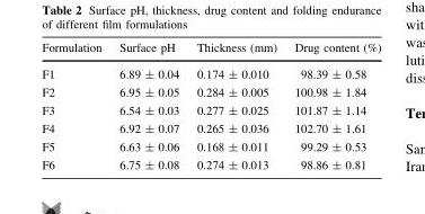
<table><thead><tr><td>Formulation</td><td>Surface pH</td><td>Thickness (mm)</td><td>Drug content (%)</td></tr></thead><tbody><tr><td>F1</td><td>6.89 ± 0.04</td><td>0.174 ± 0.010</td><td>98.39 ± 0.58</td></tr><tr><td>F2</td><td>6.95 ± 0.05</td><td>0.284 ± 0.005</td><td>100.98 ± 1.84</td></tr><tr><td>F3</td><td>6.54 ± 0.03</td><td>0.277 ± 0.025</td><td>101.87 ± 1.14</td></tr><tr><td>F4</td><td>6.92 ± 0.07</td><td>0.265 ± 0.036</td><td>102.70 ± 1.61</td></tr><tr><td>F5</td><td>6.63 ± 0.06</td><td>0.168 ± 0.011</td><td>99.29 ± 0.53</td></tr><tr><td>F6</td><td>6.75 ± 0.08</td><td>0.274 ± 0.013</td><td>98.86 ± 0.81</td></tr></tbody></table>